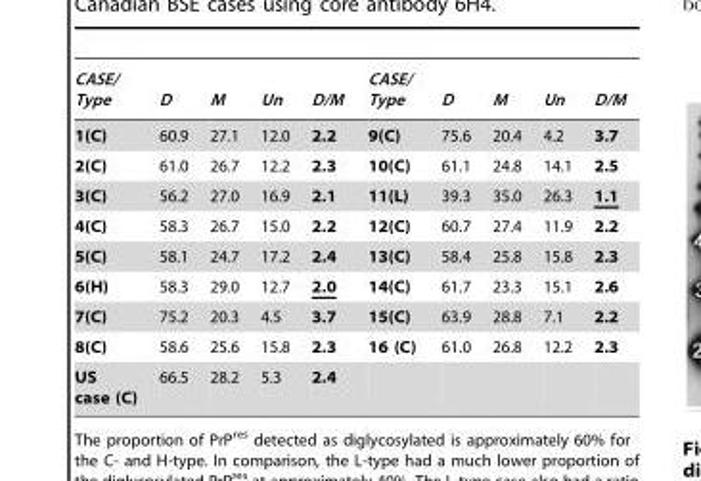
<table><thead><tr><td>CASE/ Type</td><td>D</td><td>M</td><td>Un</td><td>D/M</td><td>CASE/ Type</td><td>D</td><td>M</td><td>Un</td><td>D/M</td></tr></thead><tbody><tr><td>1(C)</td><td>60.9</td><td>27.1</td><td>12.0</td><td>2.2</td><td>9(C)</td><td>75.6</td><td>20.4</td><td>4.2</td><td>3.7</td></tr><tr><td>2(C)</td><td>61.0</td><td>26.7</td><td>12.2</td><td>2.3</td><td>10(C)</td><td>61.1</td><td>24.8</td><td>14.1</td><td>2.5</td></tr><tr><td>3(C)</td><td>56.2</td><td>27.0</td><td>16.9</td><td>2.1</td><td>11(L)</td><td>39.3</td><td>35.0</td><td>26.3</td><td>1.1</td></tr><tr><td>4(C)</td><td>58.3</td><td>26.7</td><td>15.0</td><td>2.2</td><td>12(C)</td><td>60.7</td><td>27.4</td><td>11.9</td><td>2.2</td></tr><tr><td>5(C)</td><td>58.1</td><td>24.7</td><td>17.2</td><td>2.4</td><td>13(C)</td><td>58.4</td><td>25.8</td><td>15.8</td><td>2.3</td></tr><tr><td>6(H)</td><td>58.3</td><td>29.0</td><td>12.7</td><td>2.0</td><td>14(C)</td><td>61.7</td><td>23.3</td><td>15.1</td><td>2.6</td></tr><tr><td>7(C)</td><td>75.2</td><td>20.3</td><td>4.5</td><td>3.7</td><td>15(C)</td><td>63.9</td><td>28.8</td><td>7.1</td><td>2.2</td></tr><tr><td>8(C)</td><td>58.6</td><td>25.6</td><td>15.8</td><td>2.3</td><td>16 (C)</td><td>61.0</td><td>26.8</td><td>12.2</td><td>2.3</td></tr><tr><td>US case (C)</td><td>66.5</td><td>28.2</td><td>5.3</td><td>2.4</td><td></td><td></td><td></td><td></td><td></td></tr></tbody></table>